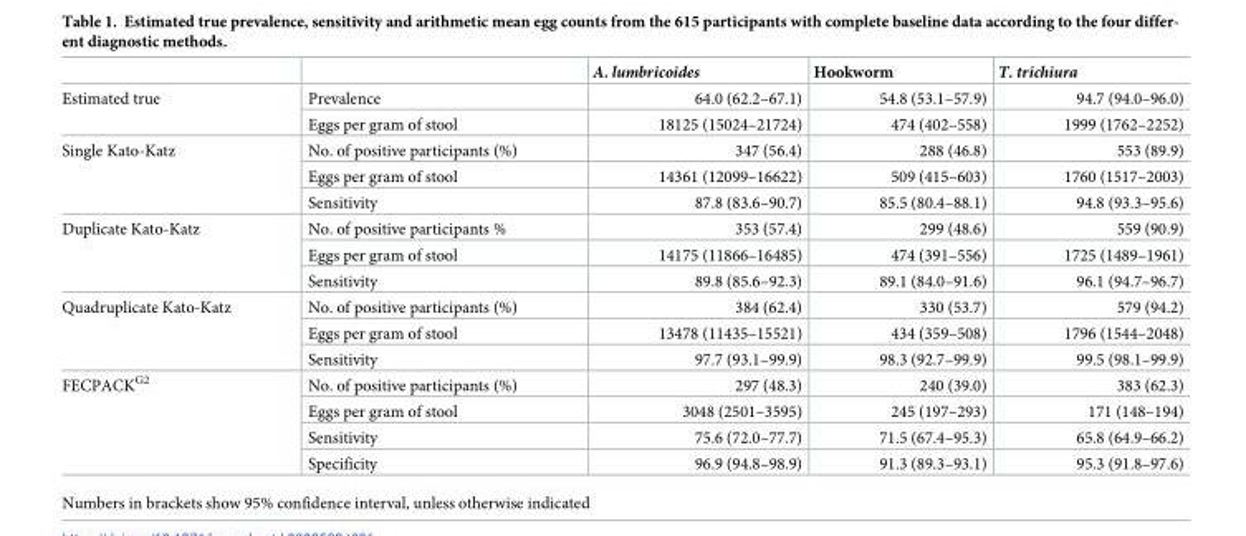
<table><thead><tr><td></td><td></td><td>A. lumbricoides</td><td>Hookworm</td><td>T. trichiura</td></tr></thead><tbody><tr><td rowspan="2">Estimated true</td><td>Prevalence</td><td>64.0 (62.2–67.1)</td><td>54.8 (53.1–57.9)</td><td>94.7 (94.0–96.0)</td></tr><tr><td>Eggs per gram of stool</td><td>18125 (15024–21724)</td><td>474 (402–558)</td><td>1999 (1762–2252)</td></tr><tr><td rowspan="3">Single Kato-Katz</td><td>No. of positive participants (%)</td><td>347 (56.4)</td><td>288 (46.8)</td><td>553 (89.9)</td></tr><tr><td>Eggs per gram of stool</td><td>14361 (12099–16622)</td><td>509 (415–603)</td><td>1760 (1517–2003)</td></tr><tr><td>Sensitivity</td><td>87.8 (83.6–90.7)</td><td>85.5 (80.4–88.1)</td><td>94.8 (93.3–95.6)</td></tr><tr><td rowspan="3">Duplicate Kato-Katz</td><td>No. of positive participants %</td><td>353 (57.4)</td><td>299 (48.6)</td><td>559 (90.9)</td></tr><tr><td>Eggs per gram of stool</td><td>14175 (11866–16485)</td><td>474 (391–556)</td><td>1725 (1489–1961)</td></tr><tr><td>Sensitivity</td><td>89.8 (85.6–92.3)</td><td>89.1 (84.0–91.6)</td><td>96.1 (94.7–96.7)</td></tr><tr><td rowspan="3">Quadruplicate Kato-Katz</td><td>No. of positive participants (%)</td><td>384 (62.4)</td><td>330 (53.7)</td><td>579 (94.2)</td></tr><tr><td>Eggs per gram of stool</td><td>13478 (11435–15521)</td><td>434 (359–508)</td><td>1796 (1544–2048)</td></tr><tr><td>Sensitivity</td><td>97.7 (93.1–99.9)</td><td>98.3 (92.7–99.9)</td><td>99.5 (98.1–99.9)</td></tr><tr><td rowspan="4">FECPACK<sup>G2</sup></td><td>No. of positive participants (%)</td><td>297 (48.3)</td><td>240 (39.0)</td><td>383 (62.3)</td></tr><tr><td>Eggs per gram of stool</td><td>3048 (2501–3595)</td><td>245 (197–293)</td><td>171 (148–194)</td></tr><tr><td>Sensitivity</td><td>75.6 (72.0–77.7)</td><td>71.5 (67.4–95.3)</td><td>65.8 (64.9–66.2)</td></tr><tr><td>Specificity</td><td>96.9 (94.8–98.9)</td><td>91.3 (89.3–93.1)</td><td>95.3 (91.8–97.6)</td></tr></tbody></table>